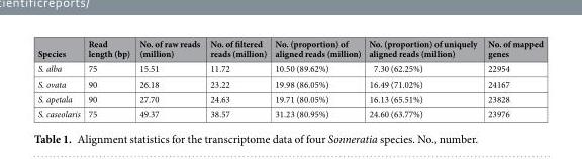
<table><thead><tr><td>Species</td><td>Read length (bp)</td><td>No. of raw reads (million)</td><td>No. of filtered reads (million)</td><td>No. (proportion) of aligned reads (million)</td><td>No. (proportion) of uniquely aligned reads (million)</td><td>No. of mapped genes</td></tr></thead><tbody><tr><td>S. alba</td><td>75</td><td>15.51</td><td>11.72</td><td>10.50 (89.62%)</td><td>7.30 (62.25%)</td><td>22954</td></tr><tr><td>S. ovata</td><td>90</td><td>26.18</td><td>23.22</td><td>19.98 (86.05%)</td><td>16.49 (71.02%)</td><td>24167</td></tr><tr><td>S. apetala</td><td>90</td><td>27.70</td><td>24.63</td><td>19.71 (80.05%)</td><td>16.13 (65.51%)</td><td>23828</td></tr><tr><td>S. caseolaris</td><td>75</td><td>49.37</td><td>38.57</td><td>31.23 (80.95%)</td><td>24.60 (63.77%)</td><td>23976</td></tr></tbody></table>